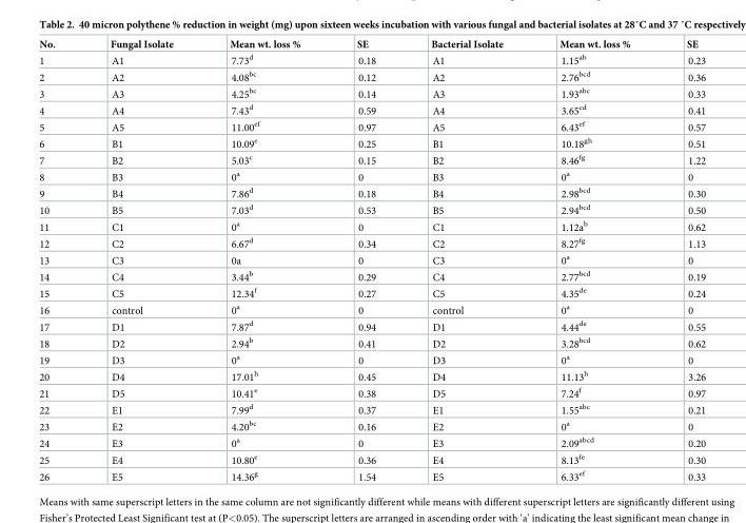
<table><thead><tr><td>No.</td><td>Fungal Isolate</td><td>Mean wt. loss %</td><td>SE</td><td>Bacterial Isolate</td><td>Mean wt. loss %</td><td>SE</td></tr></thead><tbody><tr><td>1</td><td>A1</td><td>7.73<sup>d</sup></td><td>0.18</td><td>A1</td><td>1.15<sup>ab</sup></td><td>0.23</td></tr><tr><td>2</td><td>A2</td><td>4.08<sup>bc</sup></td><td>0.12</td><td>A2</td><td>2.76<sup>bcd</sup></td><td>0.36</td></tr><tr><td>3</td><td>A3</td><td>4.25<sup>bc</sup></td><td>0.14</td><td>A3</td><td>1.93<sup>abc</sup></td><td>0.33</td></tr><tr><td>4</td><td>A4</td><td>7.43<sup>d</sup></td><td>0.59</td><td>A4</td><td>3.65<sup>cd</sup></td><td>0.41</td></tr><tr><td>5</td><td>A5</td><td>11.00<sup>ef</sup></td><td>0.97</td><td>A5</td><td>6.43<sup>ef</sup></td><td>0.57</td></tr><tr><td>6</td><td>B1</td><td>10.09<sup>e</sup></td><td>0.25</td><td>B1</td><td>10.18<sup>gh</sup></td><td>0.51</td></tr><tr><td>7</td><td>B2</td><td>5.03<sup>c</sup></td><td>0.15</td><td>B2</td><td>8.46<sup>fg</sup></td><td>1.22</td></tr><tr><td>8</td><td>B3</td><td>0<sup>a</sup></td><td>0</td><td>B3</td><td>0<sup>a</sup></td><td>0</td></tr><tr><td>9</td><td>B4</td><td>7.86<sup>d</sup></td><td>0.18</td><td>B4</td><td>2.98<sup>bcd</sup></td><td>0.30</td></tr><tr><td>10</td><td>B5</td><td>7.03<sup>d</sup></td><td>0.53</td><td>B5</td><td>2.94<sup>bcd</sup></td><td>0.50</td></tr><tr><td>11</td><td>C1</td><td>0<sup>a</sup></td><td>0</td><td>C1</td><td>1.12a<sup>b</sup></td><td>0.62</td></tr><tr><td>12</td><td>C2</td><td>6.67<sup>d</sup></td><td>0.34</td><td>C2</td><td>8.27<sup>fg</sup></td><td>1.13</td></tr><tr><td>13</td><td>C3</td><td>0a</td><td>0</td><td>C3</td><td>0<sup>a</sup></td><td>0</td></tr><tr><td>14</td><td>C4</td><td>3.44<sup>b</sup></td><td>0.29</td><td>C4</td><td>2.77<sup>bcd</sup></td><td>0.19</td></tr><tr><td>15</td><td>C5</td><td>12.34<sup>f</sup></td><td>0.27</td><td>C5</td><td>4.35<sup>de</sup></td><td>0.24</td></tr><tr><td>16</td><td>control</td><td>0<sup>a</sup></td><td>0</td><td>control</td><td>0<sup>a</sup></td><td>0</td></tr><tr><td>17</td><td>D1</td><td>7.87<sup>d</sup></td><td>0.94</td><td>D1</td><td>4.44<sup>de</sup></td><td>0.55</td></tr><tr><td>18</td><td>D2</td><td>2.94<sup>b</sup></td><td>0.41</td><td>D2</td><td>3.28<sup>bcd</sup></td><td>0.62</td></tr><tr><td>19</td><td>D3</td><td>0<sup>a</sup></td><td>0</td><td>D3</td><td>0<sup>a</sup></td><td>0</td></tr><tr><td>20</td><td>D4</td><td>17.01<sup>h</sup></td><td>0.45</td><td>D4</td><td>11.13<sup>h</sup></td><td>3.26</td></tr><tr><td>21</td><td>D5</td><td>10.41<sup>e</sup></td><td>0.38</td><td>D5</td><td>7.24<sup>f</sup></td><td>0.97</td></tr><tr><td>22</td><td>E1</td><td>7.99<sup>d</sup></td><td>0.37</td><td>E1</td><td>1.55<sup>abc</sup></td><td>0.21</td></tr><tr><td>23</td><td>E2</td><td>4.20<sup>bc</sup></td><td>0.16</td><td>E2</td><td>0<sup>a</sup></td><td>0</td></tr><tr><td>24</td><td>E3</td><td>0<sup>a</sup></td><td>0</td><td>E3</td><td>2.09<sup>abcd</sup></td><td>0.20</td></tr><tr><td>25</td><td>E4</td><td>10.80<sup>e</sup></td><td>0.36</td><td>E4</td><td>8.13<sup>fe</sup></td><td>0.30</td></tr><tr><td>26</td><td>E5</td><td>14.36<sup>g</sup></td><td>1.54</td><td>E5</td><td>6.33<sup>ef</sup></td><td>0.33</td></tr></tbody></table>